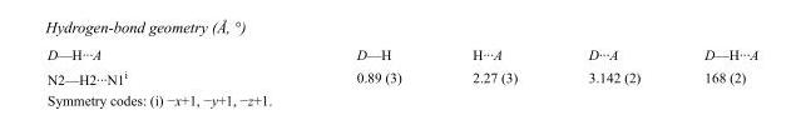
<table><tbody><tr><td>D—H···A</td><td>D—H</td><td>H···A</td><td>D···A</td><td>D—H···A</td></tr><tr><td>N2—H2···N1<sup>i</sup></td><td>0.89 (3)</td><td>2.27 (3)</td><td>3.142 (2)</td><td>168 (2)</td></tr></tbody></table>